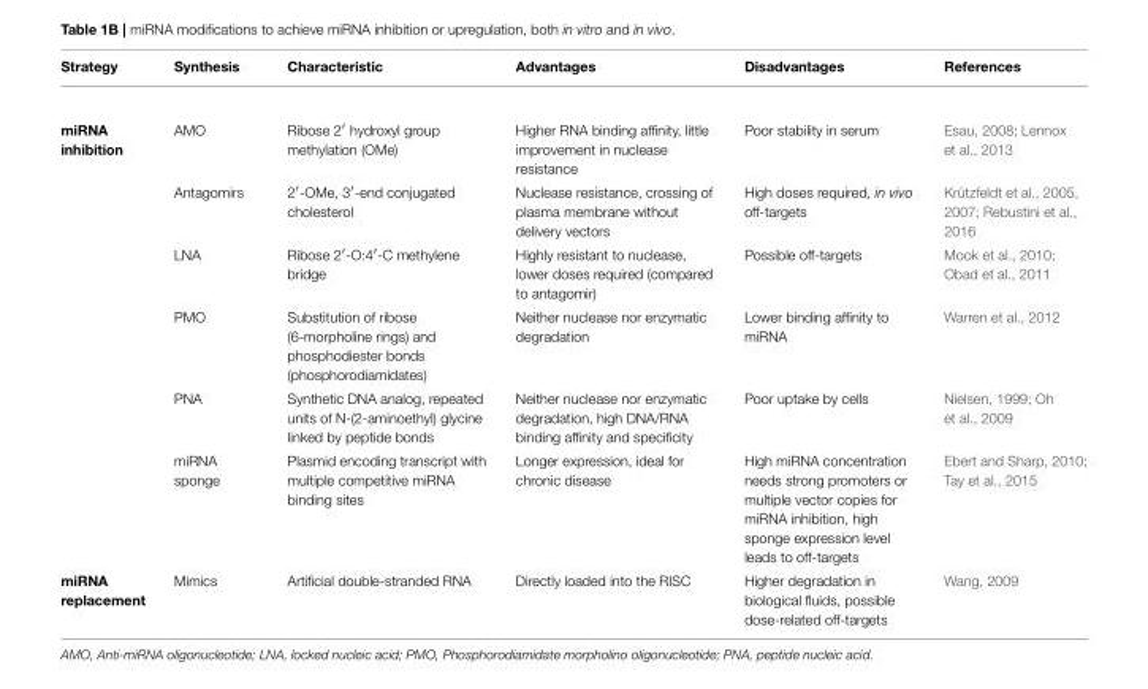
<table><thead><tr><td>Strategy</td><td>Synthesis</td><td>Characteristic</td><td>Advantages</td><td>Disadvantages</td><td>References</td></tr></thead><tbody><tr><td rowspan="6">miRNA inhibition</td><td>AMO</td><td>Ribose 2′ hydroxyl group methylation (OMe)</td><td>Higher RNA binding affinity, little improvement in nuclease resistance</td><td>Poor stability in serum</td><td>Esau, 2008; Lennox et al., 2013</td></tr><tr><td>Antagomirs</td><td>2′-OMe, 3′-end conjugated cholesterol</td><td>Nuclease resistance, crossing of plasma membrane without delivery vectors</td><td>High doses required, in vivo off-targets</td><td>Krützfeldt et al., 2005, 2007; Rebustini et al., 2016</td></tr><tr><td>LNA</td><td>Ribose 2′-O:4′-C methylene bridge</td><td>Highly resistant to nuclease, lower doses required (compared to antagomir)</td><td>Possible off-targets</td><td>Mook et al., 2010; Obad et al., 2011</td></tr><tr><td>PMO</td><td>Substitution of ribose (6-morpholine rings) and phosphodiester bonds (phosphorodiamidates)</td><td>Neither nuclease nor enzymatic degradation</td><td>Lower binding affinity to miRNA</td><td>Warren et al., 2012</td></tr><tr><td>PNA</td><td>Synthetic DNA analog, repeated units of N-(2-aminoethyl) glycine linked by peptide bonds</td><td>Neither nuclease nor enzymatic degradation, high DNA/RNA binding affinity and specificity</td><td>Poor uptake by cells</td><td>Nielsen, 1999; Oh et al., 2009</td></tr><tr><td>miRNA sponge</td><td>Plasmid encoding transcript with multiple competitive miRNA binding sites</td><td>Longer expression, ideal for chronic disease</td><td>High miRNA concentration needs strong promoters or multiple vector copies for miRNA inhibition, high sponge expression level leads to off-targets</td><td>Ebert and Sharp, 2010; Tay et al., 2015</td></tr><tr><td>miRNA replacement</td><td>Mimics</td><td>Artificial double-stranded RNA</td><td>Directly loaded into the RISC</td><td>Higher degradation in biological fluids, possible dose-related off-targets</td><td>Wang, 2009</td></tr></tbody></table>